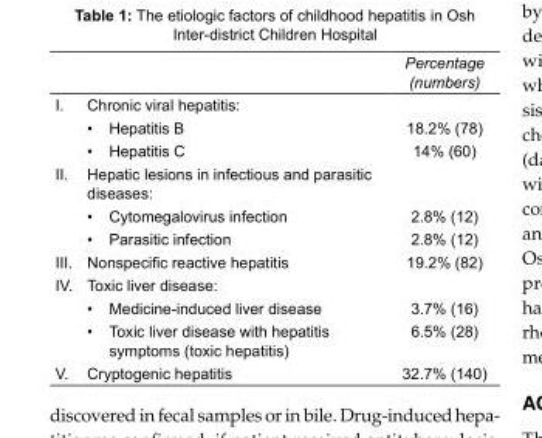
<table><thead><tr><td></td><td></td><td>Percentage (numbers)</td></tr></thead><tbody><tr><td rowspan="3">I.</td><td>Chronic viral hepatitis:</td><td></td></tr><tr><td>• Hepatitis B</td><td>18.2% (78)</td></tr><tr><td>• Hepatitis C</td><td>14% (60)</td></tr><tr><td rowspan="3">II.</td><td>Hepatic lesions in infectious and parasitic diseases:</td><td></td></tr><tr><td>• Cytomegalovirus infection</td><td>2.8% (12)</td></tr><tr><td>• Parasitic infection</td><td>2.8% (12)</td></tr><tr><td>III.</td><td>Nonspecific reactive hepatitis</td><td>19.2% (82)</td></tr><tr><td rowspan="3">IV.</td><td>Toxic liver disease:</td><td></td></tr><tr><td>• Medicine-induced liver disease</td><td>3.7% (16)</td></tr><tr><td>• Toxic liver disease with hepatitis symptoms (toxic hepatitis)</td><td>6.5% (28)</td></tr><tr><td>V.</td><td>Cryptogenic hepatitis</td><td>32.7% (140)</td></tr></tbody></table>